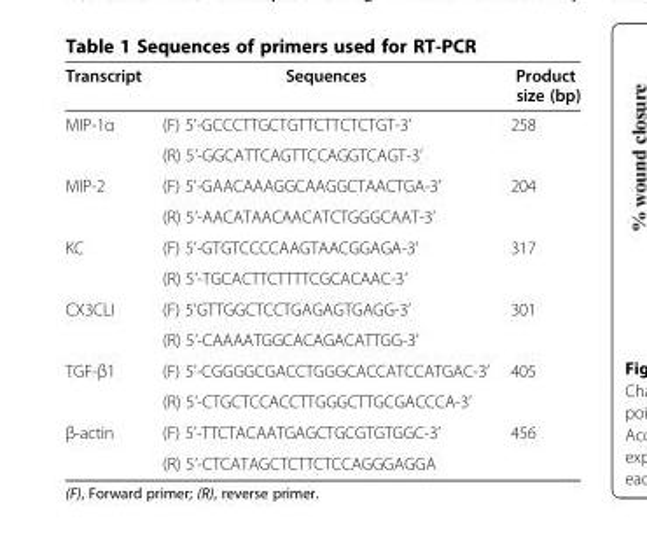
<table><thead><tr><td>Transcript</td><td>Sequences</td><td>Product size (bp)</td></tr></thead><tbody><tr><td rowspan="2">MIP-1α</td><td>(F) 5’-GCCCTTGCTGTTCTTCTCTGT-3’</td><td>258</td></tr><tr><td>(R) 5’-GGCATTCAGTTCCAGGTCAGT-3’</td><td></td></tr><tr><td rowspan="2">MIP-2</td><td>(F) 5’-GAACAAAGGCAAGGCTAACTGA-3’</td><td>204</td></tr><tr><td>(R) 5’-AACATAACAACATCTGGGCAAT-3’</td><td></td></tr><tr><td rowspan="2">KC</td><td>(F) 5’-GTGTCCCCAAGTAACGGAGA-3’</td><td>317</td></tr><tr><td>(R) 5’-TGCACTTCTTTTCGCACAAC-3’</td><td></td></tr><tr><td rowspan="2">CX3CLI</td><td>(F) 5’GTTGGCTCCTGAGAGTGAGG-3’</td><td>301</td></tr><tr><td>(R) 5’-CAAAATGGCACAGACATTGG-3’</td><td></td></tr><tr><td rowspan="2">TGF-β1</td><td>(F) 5’-CGGGGCGACCTGGGCACCATCCATGAC-3’</td><td>405</td></tr><tr><td>(R) 5’-CTGCTCCACCTTGGGCTTGCGACCCA-3’</td><td></td></tr><tr><td rowspan="2">β-actin</td><td>(F) 5’-TTCTACAATGAGCTGCGTGTGGC-3’</td><td>456</td></tr><tr><td>(R) 5’-CTCATAGCTCTTCTCCAGGGAGGA</td><td></td></tr></tbody></table>